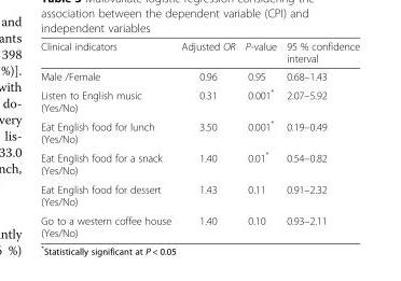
<table><thead><tr><td>Clinical indicators</td><td>Adjusted OR</td><td>P-value</td><td>95 % confidence interval</td></tr></thead><tbody><tr><td>Male /Female</td><td>0.96</td><td>0.95</td><td>0.68–1.43</td></tr><tr><td>Listen to English music (Yes/No)</td><td>0.31</td><td>0.001*</td><td>2.07–5.92</td></tr><tr><td>Eat English food for lunch (Yes/No)</td><td>3.50</td><td>0.001*</td><td>0.19–0.49</td></tr><tr><td>Eat English food for a snack (Yes/No)</td><td>1.40</td><td>0.01*</td><td>0.54–0.82</td></tr><tr><td>Eat English food for dessert (Yes/No)</td><td>1.43</td><td>0.11</td><td>0.91–2.32</td></tr><tr><td>Go to a western coffee house (Yes/No)</td><td>1.40</td><td>0.10</td><td>0.93–2.11</td></tr></tbody></table>